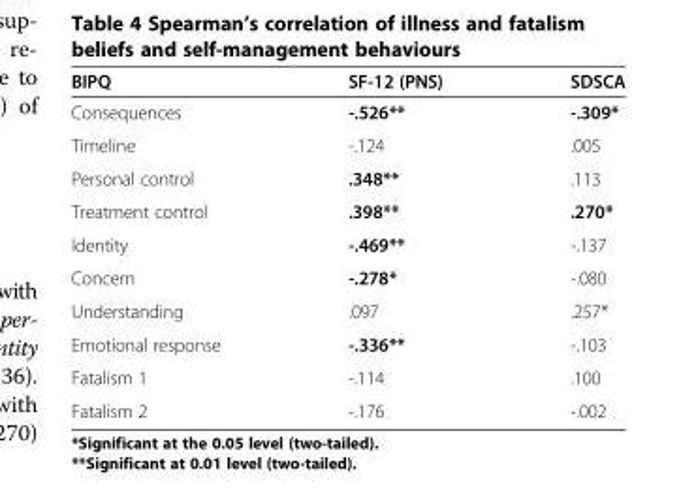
<table><thead><tr><td>BIPQ</td><td>SF-12 (PNS)</td><td>SDSCA</td></tr></thead><tbody><tr><td>Consequences</td><td>-.526**</td><td>-.309*</td></tr><tr><td>Timeline</td><td>-.124</td><td>.005</td></tr><tr><td>Personal control</td><td>.348**</td><td>.113</td></tr><tr><td>Treatment control</td><td>.398**</td><td>.270*</td></tr><tr><td>Identity</td><td>-.469**</td><td>-.137</td></tr><tr><td>Concern</td><td>-.278*</td><td>-.080</td></tr><tr><td>Understanding</td><td>.097</td><td>.257*</td></tr><tr><td>Emotional response</td><td>-.336**</td><td>-.103</td></tr><tr><td>Fatalism 1</td><td>-.114</td><td>.100</td></tr><tr><td>Fatalism 2</td><td>-.176</td><td>-.002</td></tr></tbody></table>